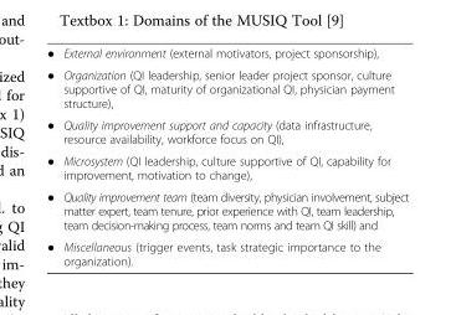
<table><tbody><tr><td>●</td><td>External environment (external motivators, project sponsorship),</td></tr><tr><td>●</td><td>Organization (QI leadership, senior leader project sponsor, culture supportive of QI, maturity of organizational QI, physician payment structure),</td></tr><tr><td>●</td><td>Quality improvement support and capacity (data infrastructure, resource availability, workforce focus on QI),</td></tr><tr><td>●</td><td>Microsystem (QI leadership, culture supportive of QI, capability for improvement, motivation to change),</td></tr><tr><td>●</td><td>Quality improvement team (team diversity, physician involvement, subject matter expert, team tenure, prior experience with QI, team leadership, team decision-making process, team norms and team QI skill) and</td></tr><tr><td>●</td><td>Miscellaneous (trigger events, task strategic importance to the organization).</td></tr></tbody></table>